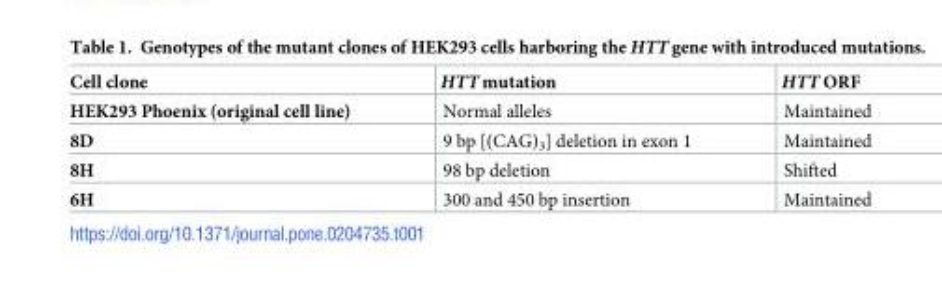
<table><thead><tr><td>Cell clone</td><td>HTT mutation</td><td>HTT ORF</td></tr></thead><tbody><tr><td>HEK293 Phoenix (original cell line)</td><td>Normal alleles</td><td>Maintained</td></tr><tr><td>8D</td><td>9 bp [(CAG)<sub>3</sub>] deletion in exon 1</td><td>Maintained</td></tr><tr><td>8H</td><td>98 bp deletion</td><td>Shifted</td></tr><tr><td>6H</td><td>300 and 450 bp insertion</td><td>Maintained</td></tr></tbody></table>